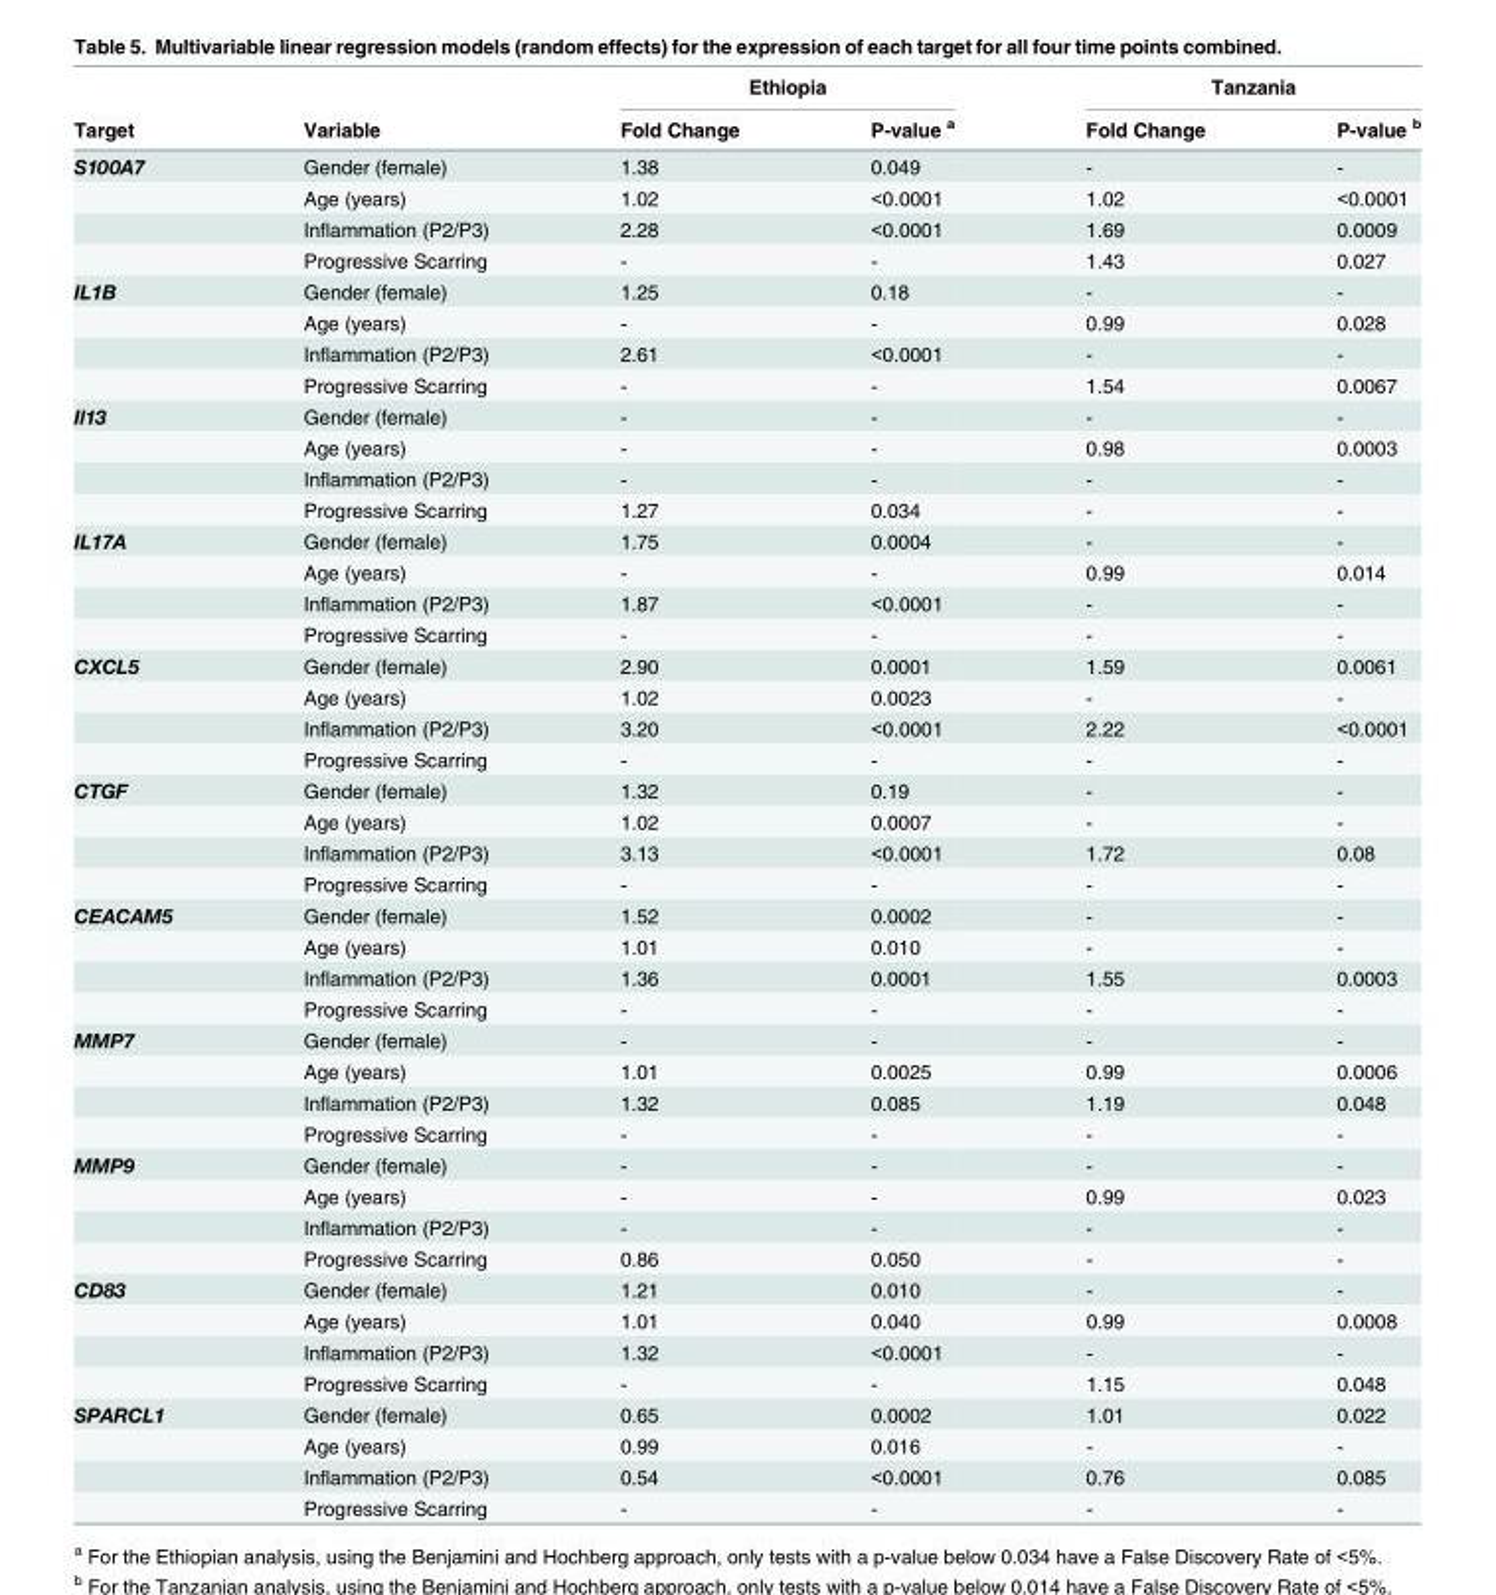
<table><thead><tr><td rowspan="2">Target</td><td rowspan="2">Variable</td><td colspan="2">Ethiopia</td><td colspan="2">Tanzania</td></tr><tr><td>Fold Change</td><td>P-value <sup>a</sup></td><td>Fold Change</td><td>P-value <sup>b</sup></td></tr></thead><tbody><tr><td rowspan="4">S100A7</td><td>Gender (female)</td><td>1.38</td><td>0.049</td><td>-</td><td>-</td></tr><tr><td>Age (years)</td><td>1.02</td><td>&lt;0.0001</td><td>1.02</td><td>&lt;0.0001</td></tr><tr><td>Inflammation (P2/P3)</td><td>2.28</td><td>&lt;0.0001</td><td>1.69</td><td>0.0009</td></tr><tr><td>Progressive Scarring</td><td>-</td><td>-</td><td>1.43</td><td>0.027</td></tr><tr><td rowspan="4">IL1B</td><td>Gender (female)</td><td>1.25</td><td>0.18</td><td>-</td><td>-</td></tr><tr><td>Age (years)</td><td>-</td><td>-</td><td>0.99</td><td>0.028</td></tr><tr><td>Inflammation (P2/P3)</td><td>2.61</td><td>&lt;0.0001</td><td>-</td><td>-</td></tr><tr><td>Progressive Scarring</td><td>-</td><td>-</td><td>1.54</td><td>0.0067</td></tr><tr><td rowspan="4">Il13</td><td>Gender (female)</td><td>-</td><td>-</td><td>-</td><td>-</td></tr><tr><td>Age (years)</td><td>-</td><td>-</td><td>0.98</td><td>0.0003</td></tr><tr><td>Inflammation (P2/P3)</td><td>-</td><td>-</td><td>-</td><td>-</td></tr><tr><td>Progressive Scarring</td><td>1.27</td><td>0.034</td><td>-</td><td>-</td></tr><tr><td rowspan="4">IL17A</td><td>Gender (female)</td><td>1.75</td><td>0.0004</td><td>-</td><td>-</td></tr><tr><td>Age (years)</td><td>-</td><td>-</td><td>0.99</td><td>0.014</td></tr><tr><td>Inflammation (P2/P3)</td><td>1.87</td><td>&lt;0.0001</td><td>-</td><td>-</td></tr><tr><td>Progressive Scarring</td><td>-</td><td>-</td><td>-</td><td>-</td></tr><tr><td rowspan="4">CXCL5</td><td>Gender (female)</td><td>2.90</td><td>0.0001</td><td>1.59</td><td>0.0061</td></tr><tr><td>Age (years)</td><td>1.02</td><td>0.0023</td><td>-</td><td>-</td></tr><tr><td>Inflammation (P2/P3)</td><td>3.20</td><td>&lt;0.0001</td><td>2.22</td><td>&lt;0.0001</td></tr><tr><td>Progressive Scarring</td><td>-</td><td>-</td><td>-</td><td>-</td></tr><tr><td rowspan="4">CTGF</td><td>Gender (female)</td><td>1.32</td><td>0.19</td><td>-</td><td>-</td></tr><tr><td>Age (years)</td><td>1.02</td><td>0.0007</td><td>-</td><td>-</td></tr><tr><td>Inflammation (P2/P3)</td><td>3.13</td><td>&lt;0.0001</td><td>1.72</td><td>0.08</td></tr><tr><td>Progressive Scarring</td><td>-</td><td>-</td><td>-</td><td>-</td></tr><tr><td rowspan="4">CEACAM5</td><td>Gender (female)</td><td>1.52</td><td>0.0002</td><td>-</td><td>-</td></tr><tr><td>Age (years)</td><td>1.01</td><td>0.010</td><td>-</td><td>-</td></tr><tr><td>Inflammation (P2/P3)</td><td>1.36</td><td>0.0001</td><td>1.55</td><td>0.0003</td></tr><tr><td>Progressive Scarring</td><td>-</td><td>-</td><td>-</td><td>-</td></tr><tr><td rowspan="4">MMP7</td><td>Gender (female)</td><td>-</td><td>-</td><td>-</td><td>-</td></tr><tr><td>Age (years)</td><td>1.01</td><td>0.0025</td><td>0.99</td><td>0.0006</td></tr><tr><td>Inflammation (P2/P3)</td><td>1.32</td><td>0.085</td><td>1.19</td><td>0.048</td></tr><tr><td>Progressive Scarring</td><td>-</td><td>-</td><td>-</td><td>-</td></tr><tr><td rowspan="4">MMP9</td><td>Gender (female)</td><td>-</td><td>-</td><td>-</td><td>-</td></tr><tr><td>Age (years)</td><td>-</td><td>-</td><td>0.99</td><td>0.023</td></tr><tr><td>Inflammation (P2/P3)</td><td>-</td><td>-</td><td>-</td><td>-</td></tr><tr><td>Progressive Scarring</td><td>0.86</td><td>0.050</td><td>-</td><td>-</td></tr><tr><td rowspan="4">CD83</td><td>Gender (female)</td><td>1.21</td><td>0.010</td><td>-</td><td>-</td></tr><tr><td>Age (years)</td><td>1.01</td><td>0.040</td><td>0.99</td><td>0.0008</td></tr><tr><td>Inflammation (P2/P3)</td><td>1.32</td><td>&lt;0.0001</td><td>-</td><td>-</td></tr><tr><td>Progressive Scarring</td><td>-</td><td>-</td><td>1.15</td><td>0.048</td></tr><tr><td rowspan="4">SPARCL1</td><td>Gender (female)</td><td>0.65</td><td>0.0002</td><td>1.01</td><td>0.022</td></tr><tr><td>Age (years)</td><td>0.99</td><td>0.016</td><td>-</td><td>-</td></tr><tr><td>Inflammation (P2/P3)</td><td>0.54</td><td>&lt;0.0001</td><td>0.76</td><td>0.085</td></tr><tr><td>Progressive Scarring</td><td>-</td><td>-</td><td>-</td><td>-</td></tr></tbody></table>